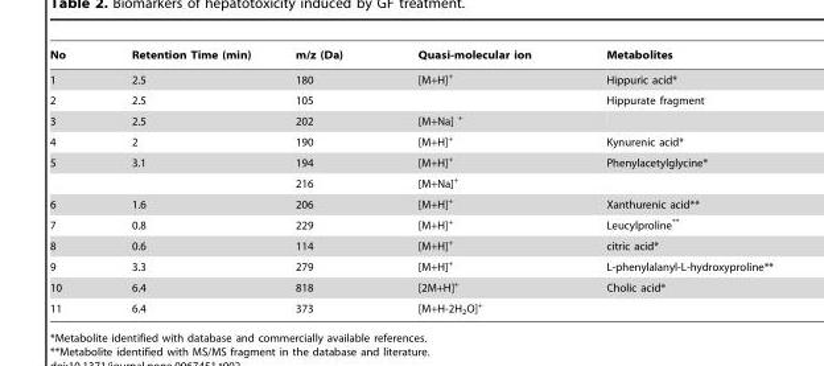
<table><thead><tr><td>No</td><td>Retention Time (min)</td><td>m/z (Da)</td><td>Quasi-molecular ion</td><td>Metabolites</td></tr></thead><tbody><tr><td>1</td><td>2.5</td><td>180</td><td>[M+H]<sup>+</sup></td><td>Hippuric acid*</td></tr><tr><td>2</td><td>2.5</td><td>105</td><td></td><td>Hippurate fragment</td></tr><tr><td>3</td><td>2.5</td><td>202</td><td>[M+Na] <sup>+</sup></td><td></td></tr><tr><td>4</td><td>2</td><td>190</td><td>[M+H]<sup>+</sup></td><td>Kynurenic acid*</td></tr><tr><td rowspan="2">5</td><td>3.1</td><td>194</td><td>[M+H]<sup>+</sup></td><td>Phenylacetylglycine*</td></tr><tr><td></td><td>216</td><td>[M+Na]<sup>+</sup></td><td></td></tr><tr><td>6</td><td>1.6</td><td>206</td><td>[M+H]<sup>+</sup></td><td>Xanthurenic acid**</td></tr><tr><td>7</td><td>0.8</td><td>229</td><td>[M+H]<sup>+</sup></td><td>Leucylproline**</td></tr><tr><td>8</td><td>0.6</td><td>114</td><td>[M+H]<sup>+</sup></td><td>citric acid*</td></tr><tr><td>9</td><td>3.3</td><td>279</td><td>[M+H]<sup>+</sup></td><td>L-phenylalanyl-L-hydroxyproline**</td></tr><tr><td>10</td><td>6.4</td><td>818</td><td>[2M+H]<sup>+</sup></td><td>Cholic acid*</td></tr><tr><td>11</td><td>6.4</td><td>373</td><td>[M+H-2H<sub>2</sub>O]<sup>+</sup></td><td></td></tr></tbody></table>